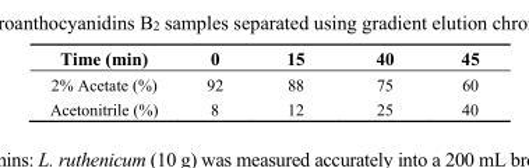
<table><thead><tr><td>Time (min)</td><td>0</td><td>15</td><td>40</td><td>45</td></tr></thead><tbody><tr><td>2% Acetate (%)</td><td>92</td><td>88</td><td>75</td><td>60</td></tr><tr><td>Acetonitrile (%)</td><td>8</td><td>12</td><td>25</td><td>40</td></tr></tbody></table>